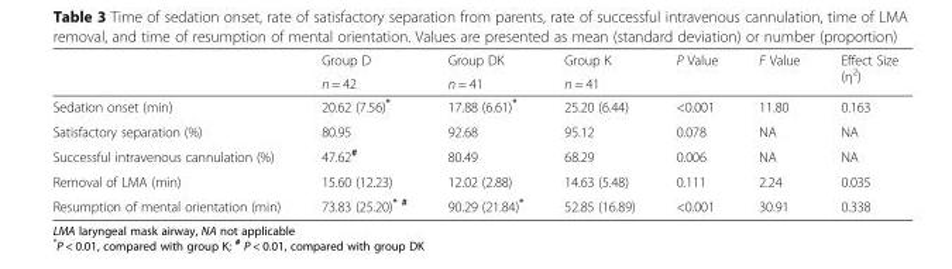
<table><thead><tr><td rowspan="2"></td><td rowspan="2">Group D n = 42</td><td rowspan="2">Group DK n = 41</td><td rowspan="2">Group K n = 41</td><td rowspan="2">P Value</td><td rowspan="2">F Value</td><td rowspan="2">Effect Size (η<sup>2</sup>)</td></tr><tr></tr></thead><tbody><tr><td>Sedation onset (min)</td><td>20.62 (7.56)*</td><td>17.88 (6.61)*</td><td>25.20 (6.44)</td><td>&lt;0.001</td><td>11.80</td><td>0.163</td></tr><tr><td>Satisfactory separation (%)</td><td>80.95</td><td>92.68</td><td>95.12</td><td>0.078</td><td>NA</td><td>NA</td></tr><tr><td>Successful intravenous cannulation (%)</td><td>47.62<sup>#</sup></td><td>80.49</td><td>68.29</td><td>0.006</td><td>NA</td><td>NA</td></tr><tr><td>Removal of LMA (min)</td><td>15.60 (12.23)</td><td>12.02 (2.88)</td><td>14.63 (5.48)</td><td>0.111</td><td>2.24</td><td>0.035</td></tr><tr><td>Resumption of mental orientation (min)</td><td>73.83 (25.20)<sup>* #</sup></td><td>90.29 (21.84)*</td><td>52.85 (16.89)</td><td>&lt;0.001</td><td>30.91</td><td>0.338</td></tr></tbody></table>